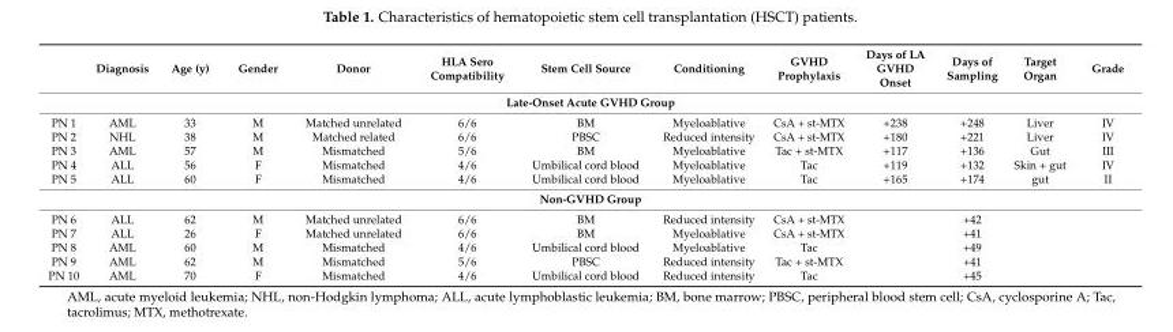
<table><thead><tr><td></td><td>Diagnosis</td><td>Age (y)</td><td>Gender</td><td>Donor</td><td>HLA Sero Compatibility</td><td>Stem Cell Source</td><td>Conditioning</td><td>GVHD Prophylaxis</td><td>Days of LA GVHD Onset</td><td>Days of Sampling</td><td>Target Organ</td><td>Grade</td></tr></thead><tbody><tr><td colspan="13">Late-Onset Acute GVHD Group</td></tr><tr><td>PN 1</td><td>AML</td><td>33</td><td>M</td><td>Matched unrelated</td><td>6/6</td><td>BM</td><td>Myeloablative</td><td>CsA + st-MTX</td><td>+238</td><td>+248</td><td>Liver</td><td>IV</td></tr><tr><td>PN 2</td><td>NHL</td><td>38</td><td>M</td><td>Matched related</td><td>6/6</td><td>PBSC</td><td>Reduced intensity</td><td>CsA + st-MTX</td><td>+180</td><td>+221</td><td>Liver</td><td>IV</td></tr><tr><td>PN 3</td><td>AML</td><td>57</td><td>M</td><td>Mismatched</td><td>5/6</td><td>BM</td><td>Myeloablative</td><td>Tac + st-MTX</td><td>+117</td><td>+136</td><td>Gut</td><td>III</td></tr><tr><td>PN 4</td><td>ALL</td><td>56</td><td>F</td><td>Mismatched</td><td>4/6</td><td>Umbilical cord blood</td><td>Myeloablative</td><td>Tac</td><td>+119</td><td>+132</td><td>Skin + gut</td><td>IV</td></tr><tr><td>PN 5</td><td>ALL</td><td>60</td><td>F</td><td>Mismatched</td><td>4/6</td><td>Umbilical cord blood</td><td>Myeloablative</td><td>Tac</td><td>+165</td><td>+174</td><td>gut</td><td>II</td></tr><tr><td colspan="13">Non-GVHD Group</td></tr><tr><td>PN 6</td><td>ALL</td><td>62</td><td>M</td><td>Matched unrelated</td><td>6/6</td><td>BM</td><td>Reduced intensity</td><td>CsA + st-MTX</td><td></td><td>+42</td><td></td><td></td></tr><tr><td>PN 7</td><td>ALL</td><td>26</td><td>F</td><td>Matched unrelated</td><td>6/6</td><td>BM</td><td>Myeloablative</td><td>CsA + st-MTX</td><td></td><td>+41</td><td></td><td></td></tr><tr><td>PN 8</td><td>AML</td><td>60</td><td>M</td><td>Mismatched</td><td>4/6</td><td>Umbilical cord blood</td><td>Myeloablative</td><td>Tac</td><td></td><td>+49</td><td></td><td></td></tr><tr><td>PN 9</td><td>AML</td><td>62</td><td>M</td><td>Mismatched</td><td>5/6</td><td>PBSC</td><td>Reduced intensity</td><td>Tac + st-MTX</td><td></td><td>+41</td><td></td><td></td></tr><tr><td>PN 10</td><td>AML</td><td>70</td><td>F</td><td>Mismatched</td><td>4/6</td><td>Umbilical cord blood</td><td>Reduced intensity</td><td>Tac</td><td></td><td>+45</td><td></td><td></td></tr></tbody></table>